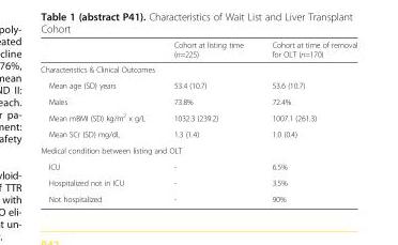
<table><thead><tr><td></td><td>Cohort at listing time (n=225)</td><td>Cohort at time of removal for OLT (n=170)</td></tr></thead><tbody><tr><td colspan="3">Characteristics &amp; Clinical Outcomes</td></tr><tr><td>Mean age (SD) years</td><td>53.4 (10.7)</td><td>53.6 (10.7)</td></tr><tr><td>Males</td><td>73.8%</td><td>72.4%</td></tr><tr><td>Mean mBMI (SD) kg/m<sup>2</sup> x g/L</td><td>1032.3 (239.2)</td><td>1007.1 (261.3)</td></tr><tr><td>Mean SCr (SD) mg/dL</td><td>1.3 (1.4)</td><td>1.0 (0.4)</td></tr><tr><td colspan="3">Medical condition between listing and OLT</td></tr><tr><td>ICU</td><td>-</td><td>6.5%</td></tr><tr><td>Hospitalized not in ICU</td><td>-</td><td>3.5%</td></tr><tr><td>Not hospitalized</td><td>-</td><td>90%</td></tr></tbody></table>